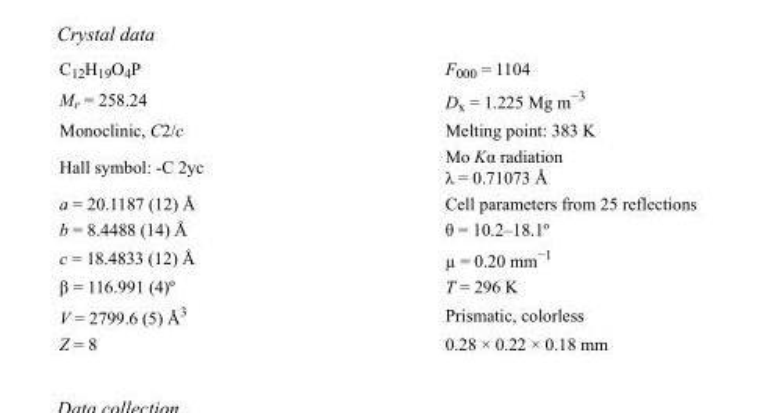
<table><tbody><tr><td>C<sub>12</sub>H<sub>19</sub>O<sub>4</sub>P</td><td>F000 = 1104</td></tr><tr><td>M<sub>r</sub> = 258.24</td><td>D<sub>x</sub> = 1.225 Mg m<sup>−3</sup></td></tr><tr><td>Monoclinic, C2/c</td><td>Melting point: 383 K</td></tr><tr><td>Hall symbol: -C 2yc</td><td>Mo Kα radiation λ = 0.71073 Å</td></tr><tr><td>a = 20.1187 (12) Å</td><td>Cell parameters from 25 reflections</td></tr><tr><td>b = 8.4488 (14) Å</td><td>θ = 10.2–18.1º</td></tr><tr><td>c = 18.4833 (12) Å</td><td>µ = 0.20 mm<sup>−1</sup></td></tr><tr><td>β = 116.991 (4)º</td><td>T = 296 K</td></tr><tr><td>V = 2799.6 (5) Å<sup>3</sup></td><td>Prismatic, colorless</td></tr><tr><td>Z = 8</td><td>0.28 × 0.22 × 0.18 mm</td></tr></tbody></table>